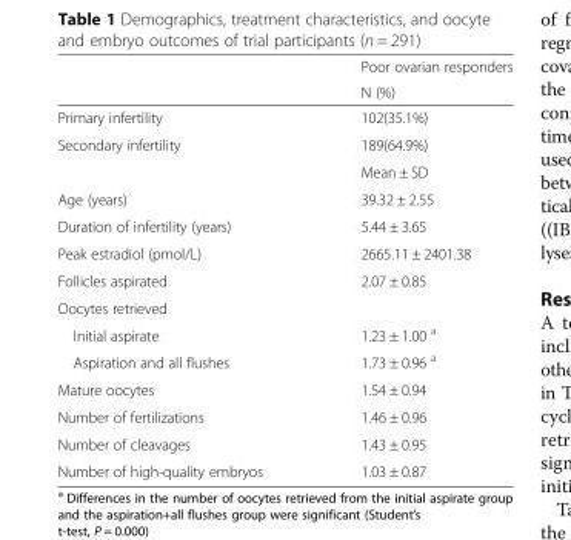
<table><thead><tr><td rowspan="2"></td><td rowspan="2">Poor ovarian responders N (%)</td></tr><tr></tr></thead><tbody><tr><td>Primary infertility</td><td>102(35.1%)</td></tr><tr><td rowspan="2">Secondary infertility</td><td>189(64.9%)</td></tr><tr><td>Mean ± SD</td></tr><tr><td>Age (years)</td><td>39.32 ± 2.55</td></tr><tr><td>Duration of infertility (years)</td><td>5.44 ± 3.65</td></tr><tr><td>Peak estradiol (pmol/L)</td><td>2665.11 ± 2401.38</td></tr><tr><td>Follicles aspirated</td><td>2.07 ± 0.85</td></tr><tr><td colspan="2">Oocytes retrieved</td></tr><tr><td>Initial aspirate</td><td>1.23 ± 1.00 <sup>a</sup></td></tr><tr><td>Aspiration and all flushes</td><td>1.73 ± 0.96 <sup>a</sup></td></tr><tr><td>Mature oocytes</td><td>1.54 ± 0.94</td></tr><tr><td>Number of fertilizations</td><td>1.46 ± 0.96</td></tr><tr><td>Number of cleavages</td><td>1.43 ± 0.95</td></tr><tr><td>Number of high-quality embryos</td><td>1.03 ± 0.87</td></tr></tbody></table>